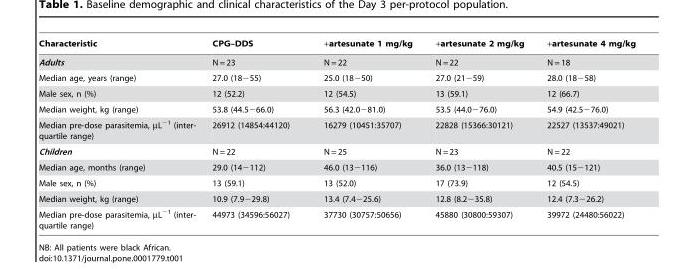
<table><thead><tr><td>Characteristic</td><td>CPG–DDS</td><td>+artesunate 1 mg/kg</td><td>+artesunate 2 mg/kg</td><td>+artesunate 4 mg/kg</td></tr></thead><tbody><tr><td>Adults</td><td>N = 23</td><td>N = 22</td><td>N = 22</td><td>N = 18</td></tr><tr><td>Median age, years (range)</td><td>27.0 (18−55)</td><td>25.0 (18−50)</td><td>27.0 (21−59)</td><td>28.0 (18−58)</td></tr><tr><td>Male sex, n (%)</td><td>12 (52.2)</td><td>12 (54.5)</td><td>13 (59.1)</td><td>12 (66.7)</td></tr><tr><td>Median weight, kg (range)</td><td>53.8 (44.5−66.0)</td><td>56.3 (42.0−81.0)</td><td>53.5 (44.0−76.0)</td><td>54.9 (42.5−76.0)</td></tr><tr><td>Median pre-dose parasitemia, µL<sup>−1</sup> (inter- quartile range)</td><td>26912 (14854:44120)</td><td>16279 (10451:35707)</td><td>22828 (15366:30121)</td><td>22527 (13537:49021)</td></tr><tr><td>Children</td><td>N = 22</td><td>N = 25</td><td>N = 23</td><td>N = 22</td></tr><tr><td>Median age, months (range)</td><td>29.0 (14−112)</td><td>46.0 (13−116)</td><td>36.0 (13−118)</td><td>40.5 (15−121)</td></tr><tr><td>Male sex, n (%)</td><td>13 (59.1)</td><td>13 (52.0)</td><td>17 (73.9)</td><td>12 (54.5)</td></tr><tr><td>Median weight, kg (range)</td><td>10.9 (7.9−29.8)</td><td>13.4 (7.4−25.6)</td><td>12.8 (8.2−35.8)</td><td>12.4 (7.3−26.2)</td></tr><tr><td>Median pre-dose parasitemia, µL<sup>−1</sup> (inter- quartile range)</td><td>44973 (34596:56027)</td><td>37730 (30757:50656)</td><td>45880 (30800:59307)</td><td>39972 (24480:56022)</td></tr></tbody></table>